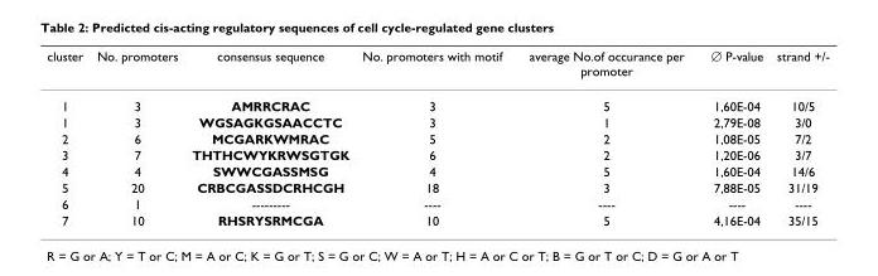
<table><thead><tr><td>cluster</td><td>No. promoters</td><td>consensus sequence</td><td>No. promoters with motif</td><td>average No.of occurance per promoter</td><td>∅ P-value</td><td>strand +/-</td></tr></thead><tbody><tr><td>1</td><td>3</td><td>AMRRCRAC</td><td>3</td><td>5</td><td>1,60E-04</td><td>10/5</td></tr><tr><td>1</td><td>3</td><td>WGSAGKGSAACCTC</td><td>3</td><td>1</td><td>2,79E-08</td><td>3/0</td></tr><tr><td>2</td><td>6</td><td>MCGARKWMRAC</td><td>5</td><td>2</td><td>1,08E-05</td><td>7/2</td></tr><tr><td>3</td><td>7</td><td>THTHCWYKRWSGTGK</td><td>6</td><td>2</td><td>1,20E-06</td><td>3/7</td></tr><tr><td>4</td><td>4</td><td>SWWCGASSMSG</td><td>4</td><td>5</td><td>1,60E-04</td><td>14/6</td></tr><tr><td>5</td><td>20</td><td>CRBCGASSDCRHCGH</td><td>18</td><td>3</td><td>7,88E-05</td><td>31/19</td></tr><tr><td>6</td><td>1</td><td>---------</td><td>----</td><td>----</td><td>----</td><td>----</td></tr><tr><td>7</td><td>10</td><td>RHSRYSRMCGA</td><td>10</td><td>5</td><td>4,16E-04</td><td>35/15</td></tr></tbody></table>